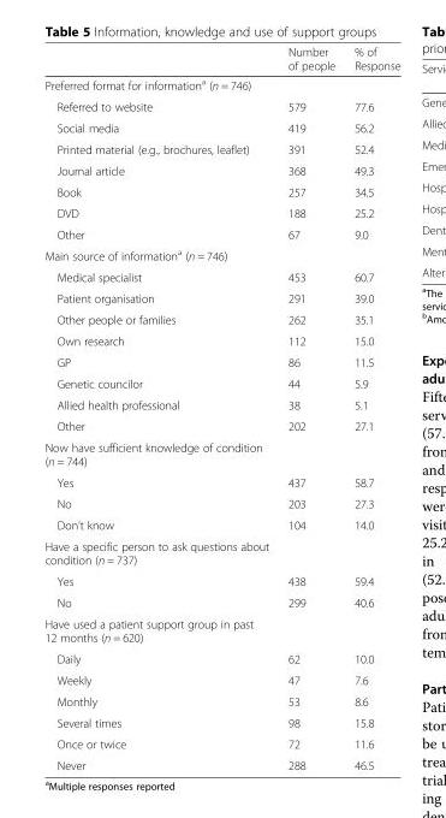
<table><thead><tr><td></td><td>Number of people</td><td>% of Response</td></tr></thead><tbody><tr><td colspan="3">Preferred format for information<sup>a</sup> (n = 746)</td></tr><tr><td>Referred to website</td><td>579</td><td>77.6</td></tr><tr><td>Social media</td><td>419</td><td>56.2</td></tr><tr><td>Printed material (e.g., brochures, leaflet)</td><td>391</td><td>52.4</td></tr><tr><td>Journal article</td><td>368</td><td>49.3</td></tr><tr><td>Book</td><td>257</td><td>34.5</td></tr><tr><td>DVD</td><td>188</td><td>25.2</td></tr><tr><td>Other</td><td>67</td><td>9.0</td></tr><tr><td colspan="3">Main source of information<sup>a</sup> (n = 746)</td></tr><tr><td>Medical specialist</td><td>453</td><td>60.7</td></tr><tr><td>Patient organisation</td><td>291</td><td>39.0</td></tr><tr><td>Other people or families</td><td>262</td><td>35.1</td></tr><tr><td>Own research</td><td>112</td><td>15.0</td></tr><tr><td>GP</td><td>86</td><td>11.5</td></tr><tr><td>Genetic councilor</td><td>44</td><td>5.9</td></tr><tr><td>Allied health professional</td><td>38</td><td>5.1</td></tr><tr><td>Other</td><td>202</td><td>27.1</td></tr><tr><td colspan="3">Now have sufficient knowledge of condition (n = 744)</td></tr><tr><td>Yes</td><td>437</td><td>58.7</td></tr><tr><td>No</td><td>203</td><td>27.3</td></tr><tr><td>Don’t know</td><td>104</td><td>14.0</td></tr><tr><td colspan="3">Have a specific person to ask questions about condition (n = 737)</td></tr><tr><td>Yes</td><td>438</td><td>59.4</td></tr><tr><td>No</td><td>299</td><td>40.6</td></tr><tr><td colspan="3">Have used a patient support group in past 12 months (n = 620)</td></tr><tr><td>Daily</td><td>62</td><td>10.0</td></tr><tr><td>Weekly</td><td>47</td><td>7.6</td></tr><tr><td>Monthly</td><td>53</td><td>8.6</td></tr><tr><td>Several times</td><td>98</td><td>15.8</td></tr><tr><td>Once or twice</td><td>72</td><td>11.6</td></tr><tr><td>Never</td><td>288</td><td>46.5</td></tr></tbody></table>